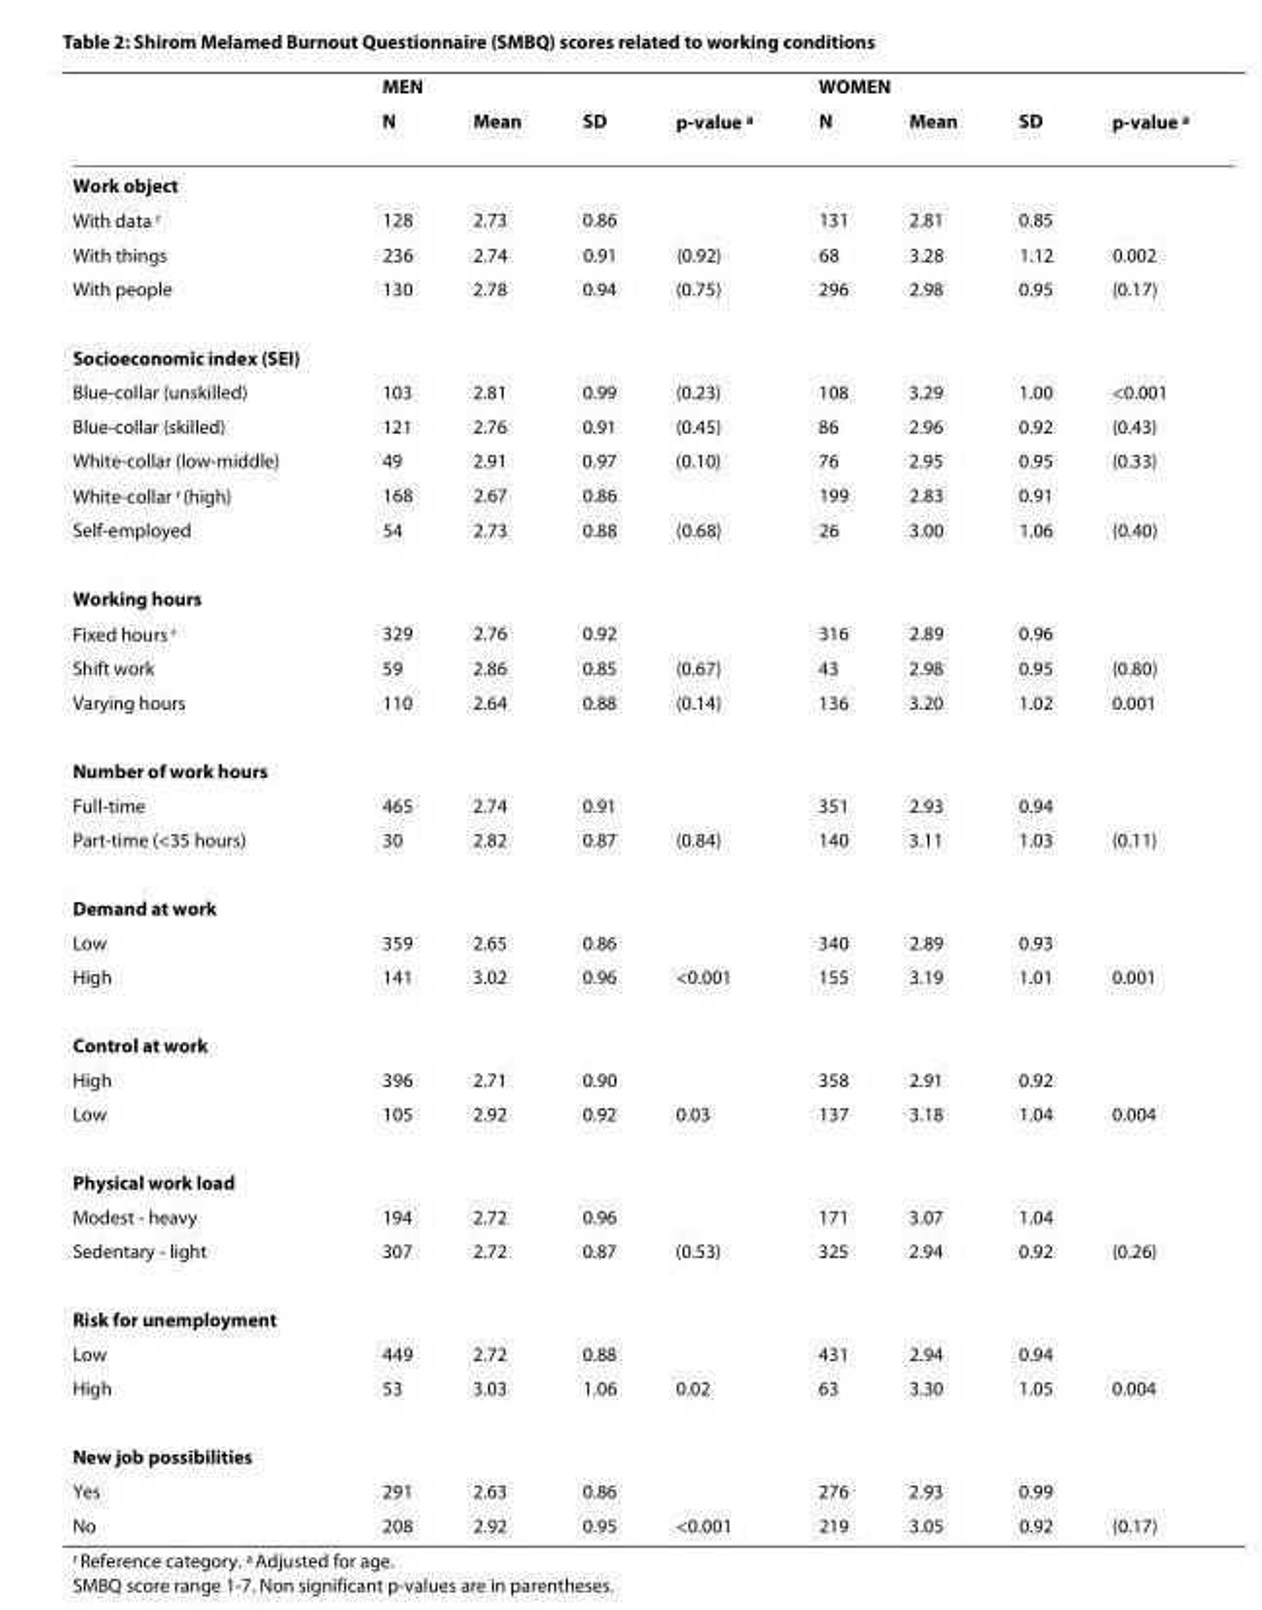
<table><thead><tr><td rowspan="2"></td><td colspan="3">MEN</td><td rowspan="2">p-value <sup>a</sup></td><td colspan="3">WOMEN</td><td rowspan="2">p-value <sup>a</sup></td></tr><tr><td>N</td><td>Mean</td><td>SD</td><td>N</td><td>Mean</td><td>SD</td></tr></thead><tbody><tr><td colspan="9">Work object</td></tr><tr><td>With data <sup>r</sup></td><td>128</td><td>2.73</td><td>0.86</td><td></td><td>131</td><td>2.81</td><td>0.85</td><td></td></tr><tr><td>With things</td><td>236</td><td>2.74</td><td>0.91</td><td>(0.92)</td><td>68</td><td>3.28</td><td>1.12</td><td>0.002</td></tr><tr><td>With people</td><td>130</td><td>2.78</td><td>0.94</td><td>(0.75)</td><td>296</td><td>2.98</td><td>0.95</td><td>(0.17)</td></tr><tr><td colspan="9">Socioeconomic index (SEI)</td></tr><tr><td>Blue-collar (unskilled)</td><td>103</td><td>2.81</td><td>0.99</td><td>(0.23)</td><td>108</td><td>3.29</td><td>1.00</td><td>&lt;0.001</td></tr><tr><td>Blue-collar (skilled)</td><td>121</td><td>2.76</td><td>0.91</td><td>(0.45)</td><td>86</td><td>2.96</td><td>0.92</td><td>(0.43)</td></tr><tr><td>White-collar (low-middle)</td><td>49</td><td>2.91</td><td>0.97</td><td>(0.10)</td><td>76</td><td>2.95</td><td>0.95</td><td>(0.33)</td></tr><tr><td>White-collar <sup>r</sup> (high)</td><td>168</td><td>2.67</td><td>0.86</td><td></td><td>199</td><td>2.83</td><td>0.91</td><td></td></tr><tr><td>Self-employed</td><td>54</td><td>2.73</td><td>0.88</td><td>(0.68)</td><td>26</td><td>3.00</td><td>1.06</td><td>(0.40)</td></tr><tr><td colspan="9">Working hours</td></tr><tr><td>Fixed hours <sup>r</sup></td><td>329</td><td>2.76</td><td>0.92</td><td></td><td>316</td><td>2.89</td><td>0.96</td><td></td></tr><tr><td>Shift work</td><td>59</td><td>2.86</td><td>0.85</td><td>(0.67)</td><td>43</td><td>2.98</td><td>0.95</td><td>(0.80)</td></tr><tr><td>Varying hours</td><td>110</td><td>2.64</td><td>0.88</td><td>(0.14)</td><td>136</td><td>3.20</td><td>1.02</td><td>0.001</td></tr><tr><td colspan="9">Number of work hours</td></tr><tr><td>Full-time</td><td>465</td><td>2.74</td><td>0.91</td><td></td><td>351</td><td>2.93</td><td>0.94</td><td></td></tr><tr><td>Part-time (&lt;35 hours)</td><td>30</td><td>2.82</td><td>0.87</td><td>(0.84)</td><td>140</td><td>3.11</td><td>1.03</td><td>(0.11)</td></tr><tr><td colspan="9">Demand at work</td></tr><tr><td>Low</td><td>359</td><td>2.65</td><td>0.86</td><td></td><td>340</td><td>2.89</td><td>0.93</td><td></td></tr><tr><td>High</td><td>141</td><td>3.02</td><td>0.96</td><td>&lt;0.001</td><td>155</td><td>3.19</td><td>1.01</td><td>0.001</td></tr><tr><td colspan="9">Control at work</td></tr><tr><td>High</td><td>396</td><td>2.71</td><td>0.90</td><td></td><td>358</td><td>2.91</td><td>0.92</td><td></td></tr><tr><td>Low</td><td>105</td><td>2.92</td><td>0.92</td><td>0.03</td><td>137</td><td>3.18</td><td>1.04</td><td>0.004</td></tr><tr><td colspan="9">Physical work load</td></tr><tr><td>Modest - heavy</td><td>194</td><td>2.72</td><td>0.96</td><td></td><td>171</td><td>3.07</td><td>1.04</td><td></td></tr><tr><td>Sedentary - light</td><td>307</td><td>2.72</td><td>0.87</td><td>(0.53)</td><td>325</td><td>2.94</td><td>0.92</td><td>(0.26)</td></tr><tr><td colspan="9">Risk for unemployment</td></tr><tr><td>Low</td><td>449</td><td>2.72</td><td>0.88</td><td></td><td>431</td><td>2.94</td><td>0.94</td><td></td></tr><tr><td>High</td><td>53</td><td>3.03</td><td>1.06</td><td>0.02</td><td>63</td><td>3.30</td><td>1.05</td><td>0.004</td></tr><tr><td colspan="9">New job possibilities</td></tr><tr><td>Yes</td><td>291</td><td>2.63</td><td>0.86</td><td></td><td>276</td><td>2.93</td><td>0.99</td><td></td></tr><tr><td>No</td><td>208</td><td>2.92</td><td>0.95</td><td>&lt;0.001</td><td>219</td><td>3.05</td><td>0.92</td><td>(0.17)</td></tr></tbody></table>